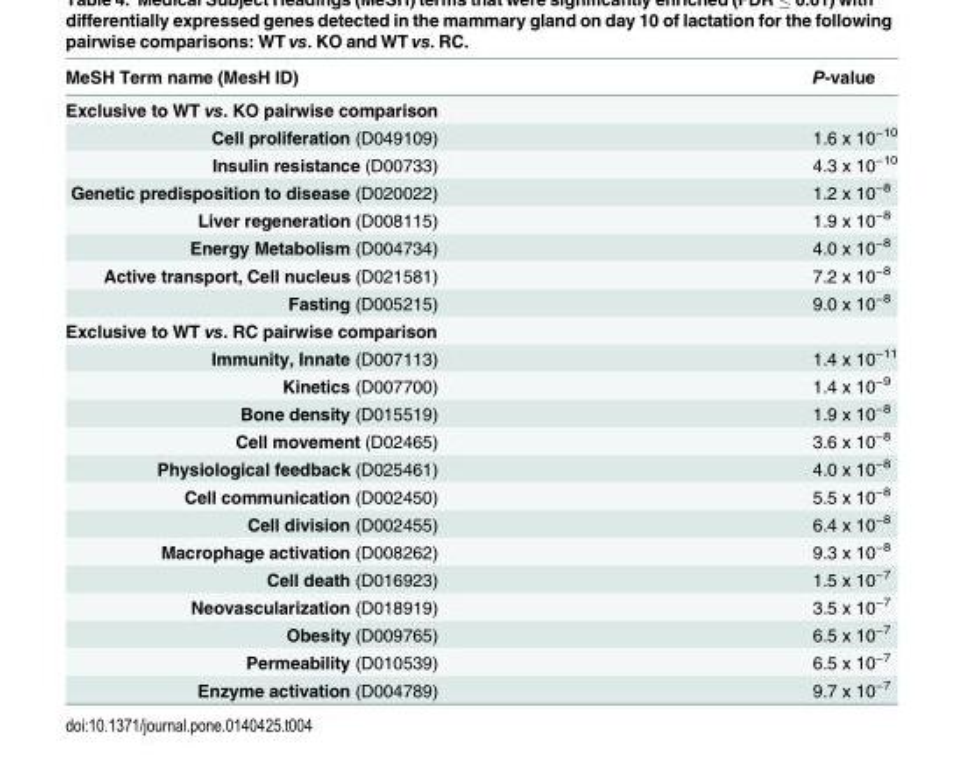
<table><thead><tr><td>MeSH Term name (MesH ID)</td><td>P-value</td></tr></thead><tbody><tr><td colspan="2">Exclusive to WT vs. KO pairwise comparison</td></tr><tr><td>Cell proliferation (D049109)</td><td>1.6 x 10<sup>−10</sup></td></tr><tr><td>Insulin resistance (D00733)</td><td>4.3 x 10<sup>−10</sup></td></tr><tr><td>Genetic predisposition to disease (D020022)</td><td>1.2 x 10<sup>−8</sup></td></tr><tr><td>Liver regeneration (D008115)</td><td>1.9 x 10<sup>−8</sup></td></tr><tr><td>Energy Metabolism (D004734)</td><td>4.0 x 10<sup>−8</sup></td></tr><tr><td>Active transport, Cell nucleus (D021581)</td><td>7.2 x 10<sup>−8</sup></td></tr><tr><td>Fasting (D005215)</td><td>9.0 x 10<sup>−8</sup></td></tr><tr><td colspan="2">Exclusive to WT vs. RC pairwise comparison</td></tr><tr><td>Immunity, Innate (D007113)</td><td>1.4 x 10<sup>−11</sup></td></tr><tr><td>Kinetics (D007700)</td><td>1.4 x 10<sup>−9</sup></td></tr><tr><td>Bone density (D015519)</td><td>1.9 x 10<sup>−8</sup></td></tr><tr><td>Cell movement (D02465)</td><td>3.6 x 10<sup>−8</sup></td></tr><tr><td>Physiological feedback (D025461)</td><td>4.0 x 10<sup>−8</sup></td></tr><tr><td>Cell communication (D002450)</td><td>5.5 x 10<sup>−8</sup></td></tr><tr><td>Cell division (D002455)</td><td>6.4 x 10<sup>−8</sup></td></tr><tr><td>Macrophage activation (D008262)</td><td>9.3 x 10<sup>−8</sup></td></tr><tr><td>Cell death (D016923)</td><td>1.5 x 10<sup>−7</sup></td></tr><tr><td>Neovascularization (D018919)</td><td>3.5 x 10<sup>−7</sup></td></tr><tr><td>Obesity (D009765)</td><td>6.5 x 10<sup>−7</sup></td></tr><tr><td>Permeability (D010539)</td><td>6.5 x 10<sup>−7</sup></td></tr><tr><td>Enzyme activation (D004789)</td><td>9.7 x 10<sup>−7</sup></td></tr></tbody></table>